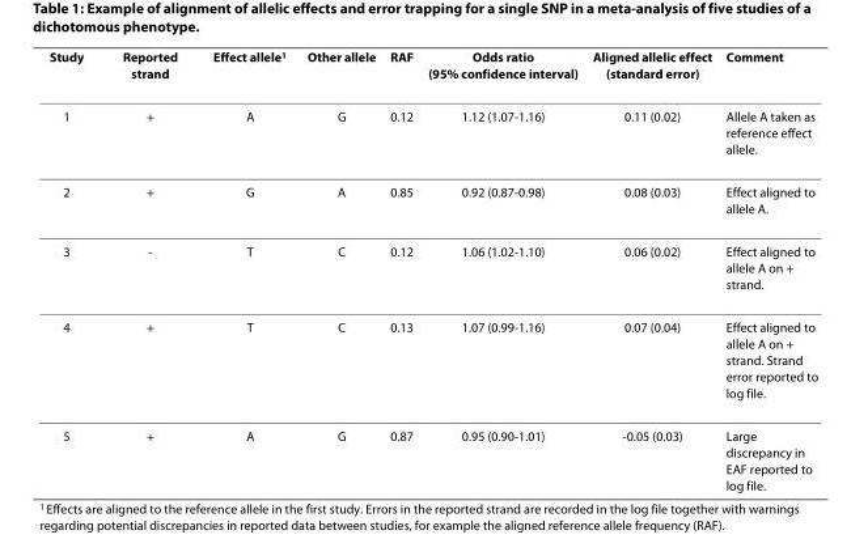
<table><thead><tr><td>Study</td><td>Reported strand</td><td>Effect allele<sup>1</sup></td><td>Other allele</td><td>RAF</td><td>Odds ratio (95% confidence interval)</td><td>Aligned allelic effect (standard error)</td><td>Comment</td></tr></thead><tbody><tr><td>1</td><td>+</td><td>A</td><td>G</td><td>0.12</td><td>1.12 (1.07-1.16)</td><td>0.11 (0.02)</td><td>Allele A taken as reference effect allele.</td></tr><tr><td>2</td><td>+</td><td>G</td><td>A</td><td>0.85</td><td>0.92 (0.87-0.98)</td><td>0.08 (0.03)</td><td>Effect aligned to allele A.</td></tr><tr><td>3</td><td>-</td><td>T</td><td>C</td><td>0.12</td><td>1.06 (1.02-1.10)</td><td>0.06 (0.02)</td><td>Effect aligned to allele A on + strand.</td></tr><tr><td>4</td><td>+</td><td>T</td><td>C</td><td>0.13</td><td>1.07 (0.99-1.16)</td><td>0.07 (0.04)</td><td>Effect aligned to allele A on + strand. Strand error reported to log file.</td></tr><tr><td>5</td><td>+</td><td>A</td><td>G</td><td>0.87</td><td>0.95 (0.90-1.01)</td><td>-0.05 (0.03)</td><td>Large discrepancy in EAF reported to log file.</td></tr></tbody></table>